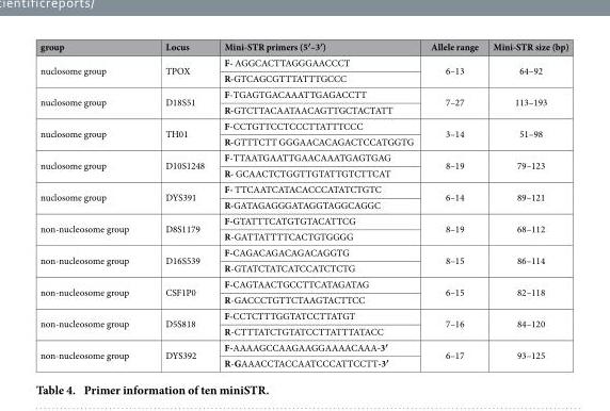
<table><thead><tr><td>group</td><td>Locus</td><td>Mini-STR primers (5′–3′)</td><td>Allele range</td><td>Mini-STR size (bp)</td></tr></thead><tbody><tr><td rowspan="2">nuclosome group</td><td rowspan="2">TPOX</td><td>F- AGGCACTTAGGGAACCCT</td><td rowspan="2">6–13</td><td rowspan="2">64–92</td></tr><tr><td>R-GTCAGCGTTTATTTGCCC</td></tr><tr><td rowspan="2">nuclosome group</td><td rowspan="2">D18S51</td><td>F-TGAGTGACAAATTGAGACCTT</td><td rowspan="2">7–27</td><td rowspan="2">113–193</td></tr><tr><td>R-GTCTTACAATAACAGTTGCTACTATT</td></tr><tr><td rowspan="2">nuclosome group</td><td rowspan="2">TH01</td><td>F-CCTGTTCCTCCCTTATTTCCC</td><td rowspan="2">3–14</td><td rowspan="2">51–98</td></tr><tr><td>R-GTTTCTT GGGAACACAGACTCCATGGTG</td></tr><tr><td rowspan="2">nuclosome group</td><td rowspan="2">D10S1248</td><td>F-TTAATGAATTGAACAAATGAGTGAG</td><td rowspan="2">8–19</td><td rowspan="2">79–123</td></tr><tr><td>R- GCAACTCTGGTTGTATTGTCTTCAT</td></tr><tr><td rowspan="2">nuclosome group</td><td rowspan="2">DYS391</td><td>F- TTCAATCATACACCCATATCTGTC</td><td rowspan="2">6–14</td><td rowspan="2">89–121</td></tr><tr><td>R-GATAGAGGGATAGGTAGGCAGGC</td></tr><tr><td rowspan="2">non-nucleosome group</td><td rowspan="2">D8S1179</td><td>F-GTATTTCATGTGTACATTCG</td><td rowspan="2">8–19</td><td rowspan="2">68–112</td></tr><tr><td>R-GATTATTTTCACTGTGGGG</td></tr><tr><td rowspan="2">non-nucleosome group</td><td rowspan="2">D16S539</td><td>F-CAGACAGACAGACAGGTG</td><td rowspan="2">8–15</td><td rowspan="2">86–114</td></tr><tr><td>R-GTATCTATCATCCATCTCTG</td></tr><tr><td rowspan="2">non-nucleosome group</td><td rowspan="2">CSF1P0</td><td>F-CAGTAACTGCCTTCATAGATAG</td><td rowspan="2">6–15</td><td rowspan="2">82–118</td></tr><tr><td>R-GACCCTGTTCTAAGTACTTCC</td></tr><tr><td rowspan="2">non-nucleosome group</td><td rowspan="2">D5S818</td><td>F-CCTCTTTGGTATCCTTATGT</td><td rowspan="2">7–16</td><td rowspan="2">84–120</td></tr><tr><td>R-CTTTATCTGTATCCTTATTTATACC</td></tr><tr><td rowspan="2">non-nucleosome group</td><td rowspan="2">DYS392</td><td>F-AAAAGCCAAGAAGGAAAACAAA-3′</td><td rowspan="2">6–17</td><td rowspan="2">93–125</td></tr><tr><td>R-GAAACCTACCAATCCCATTCCTT-3′</td></tr></tbody></table>